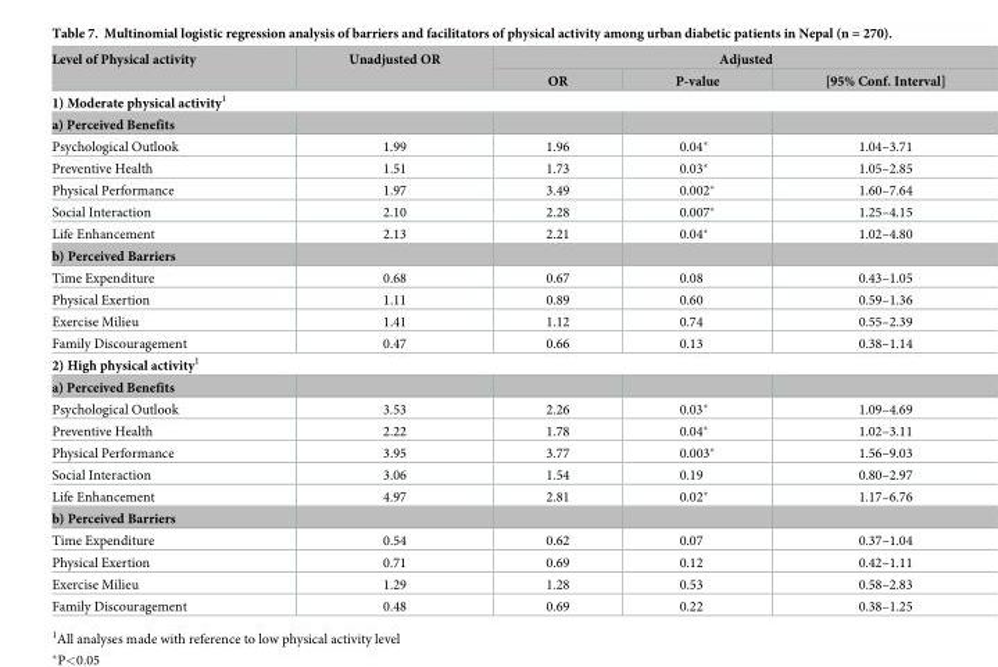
<table><thead><tr><td rowspan="2">Level of Physical activity</td><td rowspan="2">Unadjusted OR</td><td colspan="3">Adjusted</td></tr><tr><td>OR</td><td>P-value</td><td>[95% Conf. Interval]</td></tr></thead><tbody><tr><td colspan="5">1) Moderate physical activity<sup>1</sup></td></tr><tr><td colspan="5">a) Perceived Benefits</td></tr><tr><td>Psychological Outlook</td><td>1.99</td><td>1.96</td><td>0.04*</td><td>1.04–3.71</td></tr><tr><td>Preventive Health</td><td>1.51</td><td>1.73</td><td>0.03*</td><td>1.05–2.85</td></tr><tr><td>Physical Performance</td><td>1.97</td><td>3.49</td><td>0.002*</td><td>1.60–7.64</td></tr><tr><td>Social Interaction</td><td>2.10</td><td>2.28</td><td>0.007*</td><td>1.25–4.15</td></tr><tr><td>Life Enhancement</td><td>2.13</td><td>2.21</td><td>0.04*</td><td>1.02–4.80</td></tr><tr><td colspan="5">b) Perceived Barriers</td></tr><tr><td>Time Expenditure</td><td>0.68</td><td>0.67</td><td>0.08</td><td>0.43–1.05</td></tr><tr><td>Physical Exertion</td><td>1.11</td><td>0.89</td><td>0.60</td><td>0.59–1.36</td></tr><tr><td>Exercise Milieu</td><td>1.41</td><td>1.12</td><td>0.74</td><td>0.55–2.39</td></tr><tr><td>Family Discouragement</td><td>0.47</td><td>0.66</td><td>0.13</td><td>0.38–1.14</td></tr><tr><td colspan="5">2) High physical activity<sup>1</sup></td></tr><tr><td colspan="5">a) Perceived Benefits</td></tr><tr><td>Psychological Outlook</td><td>3.53</td><td>2.26</td><td>0.03*</td><td>1.09–4.69</td></tr><tr><td>Preventive Health</td><td>2.22</td><td>1.78</td><td>0.04*</td><td>1.02–3.11</td></tr><tr><td>Physical Performance</td><td>3.95</td><td>3.77</td><td>0.003*</td><td>1.56–9.03</td></tr><tr><td>Social Interaction</td><td>3.06</td><td>1.54</td><td>0.19</td><td>0.80–2.97</td></tr><tr><td>Life Enhancement</td><td>4.97</td><td>2.81</td><td>0.02*</td><td>1.17–6.76</td></tr><tr><td colspan="5">b) Perceived Barriers</td></tr><tr><td>Time Expenditure</td><td>0.54</td><td>0.62</td><td>0.07</td><td>0.37–1.04</td></tr><tr><td>Physical Exertion</td><td>0.71</td><td>0.69</td><td>0.12</td><td>0.42–1.11</td></tr><tr><td>Exercise Milieu</td><td>1.29</td><td>1.28</td><td>0.53</td><td>0.58–2.83</td></tr><tr><td>Family Discouragement</td><td>0.48</td><td>0.69</td><td>0.22</td><td>0.38–1.25</td></tr></tbody></table>